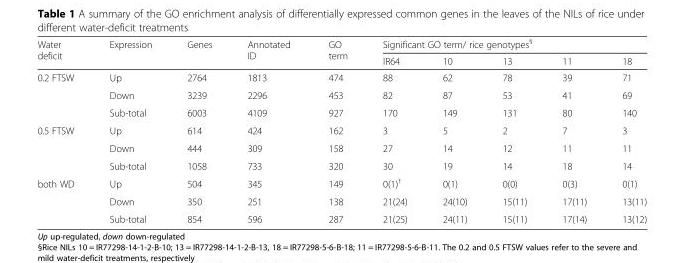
<table><thead><tr><td rowspan="2">Water deficit</td><td rowspan="2">Expression</td><td rowspan="2">Genes</td><td rowspan="2">Annotated ID</td><td rowspan="2">GO term</td><td colspan="5">Significant GO term/ rice genotypes<sup>§</sup></td></tr><tr><td>IR64</td><td>10</td><td>13</td><td>11</td><td>18</td></tr></thead><tbody><tr><td rowspan="3">0.2 FTSW</td><td>Up</td><td>2764</td><td>1813</td><td>474</td><td>88</td><td>62</td><td>78</td><td>39</td><td>71</td></tr><tr><td>Down</td><td>3239</td><td>2296</td><td>453</td><td>82</td><td>87</td><td>53</td><td>41</td><td>69</td></tr><tr><td>Sub-total</td><td>6003</td><td>4109</td><td>927</td><td>170</td><td>149</td><td>131</td><td>80</td><td>140</td></tr><tr><td rowspan="3">0.5 FTSW</td><td>Up</td><td>614</td><td>424</td><td>162</td><td>3</td><td>5</td><td>2</td><td>7</td><td>3</td></tr><tr><td>Down</td><td>444</td><td>309</td><td>158</td><td>27</td><td>14</td><td>12</td><td>11</td><td>11</td></tr><tr><td>Sub-total</td><td>1058</td><td>733</td><td>320</td><td>30</td><td>19</td><td>14</td><td>18</td><td>14</td></tr><tr><td rowspan="3">both WD</td><td>Up</td><td>504</td><td>345</td><td>149</td><td>0(1)<sup>†</sup></td><td>0(1)</td><td>0(0)</td><td>0(3)</td><td>0(1)</td></tr><tr><td>Down</td><td>350</td><td>251</td><td>138</td><td>21(24)</td><td>24(10)</td><td>15(11)</td><td>17(11)</td><td>13(11)</td></tr><tr><td>Sub-total</td><td>854</td><td>596</td><td>287</td><td>21(25)</td><td>24(11)</td><td>15(11)</td><td>17(14)</td><td>13(12)</td></tr></tbody></table>